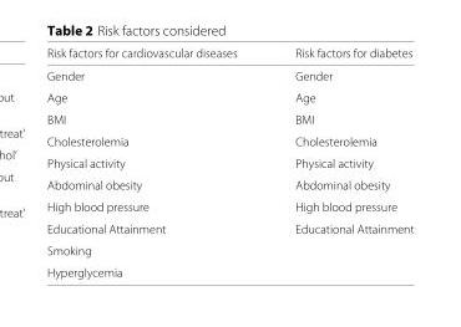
<table><thead><tr><td>Risk factors for cardiovascular diseases</td><td>Risk factors for diabetes</td></tr></thead><tbody><tr><td>Gender</td><td>Gender</td></tr><tr><td>Age</td><td>Age</td></tr><tr><td>BMI</td><td>BMI</td></tr><tr><td>Cholesterolemia</td><td>Cholesterolemia</td></tr><tr><td>Physical activity</td><td>Physical activity</td></tr><tr><td>Abdominal obesity</td><td>Abdominal obesity</td></tr><tr><td>High blood pressure</td><td>High blood pressure</td></tr><tr><td>Educational Attainment</td><td>Educational Attainment</td></tr><tr><td colspan="2">Smoking</td></tr><tr><td>Hyperglycemia</td><td></td></tr></tbody></table>